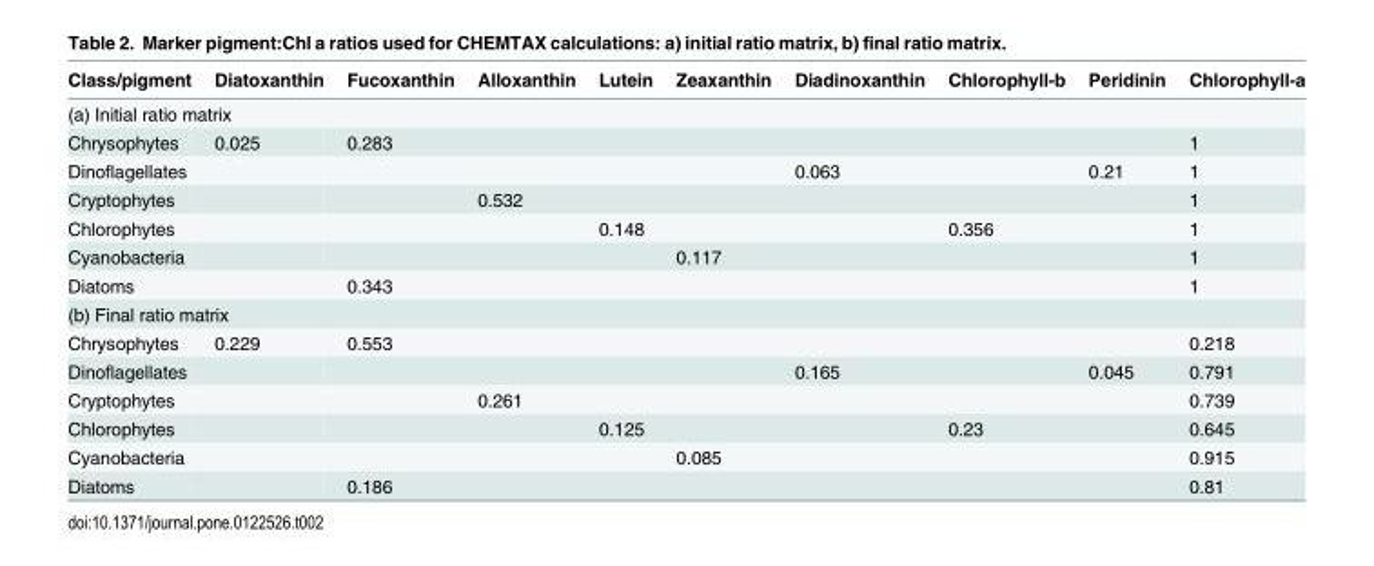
<table><thead><tr><td>Class/pigment</td><td>Diatoxanthin</td><td>Fucoxanthin</td><td>Alloxanthin</td><td>Lutein</td><td>Zeaxanthin</td><td>Diadinoxanthin</td><td>Chlorophyll-b</td><td>Peridinin</td><td>Chlorophyll-a</td></tr></thead><tbody><tr><td colspan="10">(a) Initial ratio matrix</td></tr><tr><td>Chrysophytes</td><td>0.025</td><td>0.283</td><td></td><td></td><td></td><td></td><td></td><td></td><td>1</td></tr><tr><td>Dinoflagellates</td><td></td><td></td><td></td><td></td><td></td><td>0.063</td><td></td><td>0.21</td><td>1</td></tr><tr><td>Cryptophytes</td><td></td><td></td><td>0.532</td><td></td><td></td><td></td><td></td><td></td><td>1</td></tr><tr><td>Chlorophytes</td><td></td><td></td><td></td><td>0.148</td><td></td><td></td><td>0.356</td><td></td><td>1</td></tr><tr><td>Cyanobacteria</td><td></td><td></td><td></td><td></td><td>0.117</td><td></td><td></td><td></td><td>1</td></tr><tr><td>Diatoms</td><td></td><td>0.343</td><td></td><td></td><td></td><td></td><td></td><td></td><td>1</td></tr><tr><td colspan="10">(b) Final ratio matrix</td></tr><tr><td>Chrysophytes</td><td>0.229</td><td>0.553</td><td></td><td></td><td></td><td></td><td></td><td></td><td>0.218</td></tr><tr><td>Dinoflagellates</td><td></td><td></td><td></td><td></td><td></td><td>0.165</td><td></td><td>0.045</td><td>0.791</td></tr><tr><td>Cryptophytes</td><td></td><td></td><td>0.261</td><td></td><td></td><td></td><td></td><td></td><td>0.739</td></tr><tr><td>Chlorophytes</td><td></td><td></td><td></td><td>0.125</td><td></td><td></td><td>0.23</td><td></td><td>0.645</td></tr><tr><td>Cyanobacteria</td><td></td><td></td><td></td><td></td><td>0.085</td><td></td><td></td><td></td><td>0.915</td></tr><tr><td>Diatoms</td><td></td><td>0.186</td><td></td><td></td><td></td><td></td><td></td><td></td><td>0.81</td></tr></tbody></table>